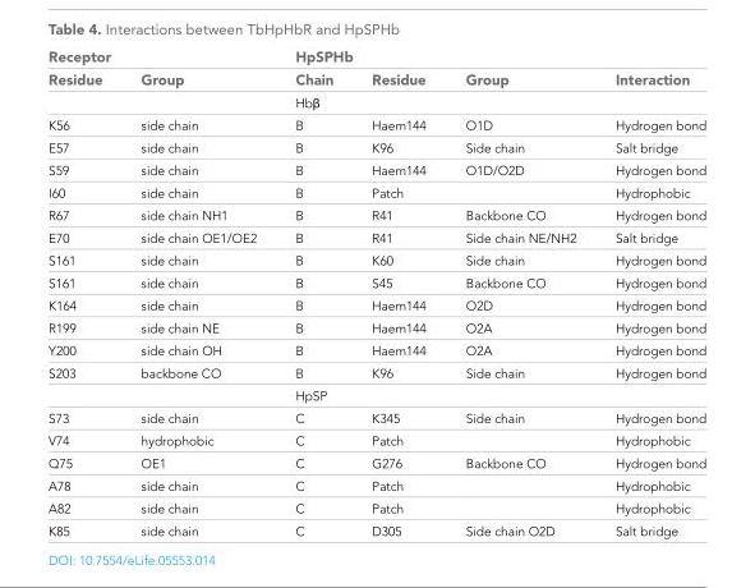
<table><thead><tr><td colspan="2">Receptor</td><td colspan="3">HpSPHb</td><td rowspan="2">Interaction</td></tr><tr><td>Residue</td><td>Group</td><td>Chain</td><td>Residue</td><td>Group</td></tr></thead><tbody><tr><td></td><td></td><td>Hbβ</td><td></td><td></td><td></td></tr><tr><td>K56</td><td>side chain</td><td>B</td><td>Haem144</td><td>O1D</td><td>Hydrogen bond</td></tr><tr><td>E57</td><td>side chain</td><td>B</td><td>K96</td><td>Side chain</td><td>Salt bridge</td></tr><tr><td>S59</td><td>side chain</td><td>B</td><td>Haem144</td><td>O1D/O2D</td><td>Hydrogen bond</td></tr><tr><td>I60</td><td>side chain</td><td>B</td><td>Patch</td><td></td><td>Hydrophobic</td></tr><tr><td>R67</td><td>side chain NH1</td><td>B</td><td>R41</td><td>Backbone CO</td><td>Hydrogen bond</td></tr><tr><td>E70</td><td>side chain OE1/OE2</td><td>B</td><td>R41</td><td>Side chain NE/NH2</td><td>Salt bridge</td></tr><tr><td>S161</td><td>side chain</td><td>B</td><td>K60</td><td>Side chain</td><td>Hydrogen bond</td></tr><tr><td>S161</td><td>side chain</td><td>B</td><td>S45</td><td>Backbone CO</td><td>Hydrogen bond</td></tr><tr><td>K164</td><td>side chain</td><td>B</td><td>Haem144</td><td>O2D</td><td>Hydrogen bond</td></tr><tr><td>R199</td><td>side chain NE</td><td>B</td><td>Haem144</td><td>O2A</td><td>Hydrogen bond</td></tr><tr><td>Y200</td><td>side chain OH</td><td>B</td><td>Haem144</td><td>O2A</td><td>Hydrogen bond</td></tr><tr><td rowspan="2">S203</td><td>backbone CO</td><td>B</td><td>K96</td><td>Side chain</td><td>Hydrogen bond</td></tr><tr><td></td><td>HpSP</td><td></td><td></td><td></td></tr><tr><td>S73</td><td>side chain</td><td>C</td><td>K345</td><td>Side chain</td><td>Hydrogen bond</td></tr><tr><td>V74</td><td>hydrophobic</td><td>C</td><td>Patch</td><td></td><td>Hydrophobic</td></tr><tr><td>Q75</td><td>OE1</td><td>C</td><td>G276</td><td>Backbone CO</td><td>Hydrogen bond</td></tr><tr><td>A78</td><td>side chain</td><td>C</td><td>Patch</td><td></td><td>Hydrophobic</td></tr><tr><td>A82</td><td>side chain</td><td>C</td><td>Patch</td><td></td><td>Hydrophobic</td></tr><tr><td>K85</td><td>side chain</td><td>C</td><td>D305</td><td>Side chain O2D</td><td>Salt bridge</td></tr></tbody></table>